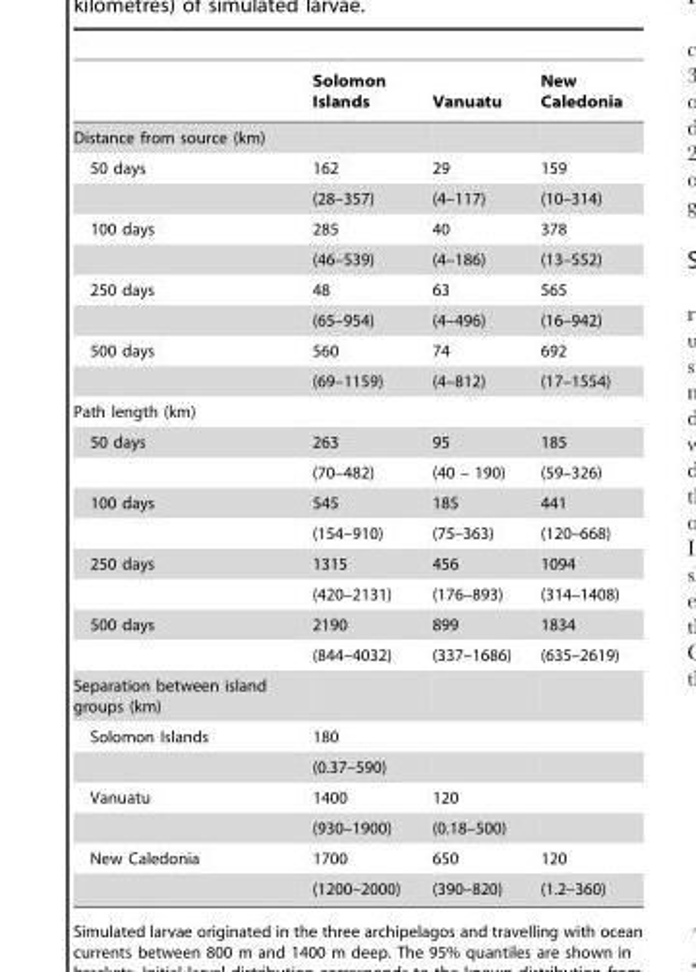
<table><thead><tr><td></td><td>Solomon Islands</td><td>Vanuatu</td><td>New Caledonia</td></tr></thead><tbody><tr><td colspan="4">Distance from source (km)</td></tr><tr><td rowspan="2">50 days</td><td>162</td><td>29</td><td>159</td></tr><tr><td>(28–357)</td><td>(4–117)</td><td>(10–314)</td></tr><tr><td rowspan="2">100 days</td><td>285</td><td>40</td><td>378</td></tr><tr><td>(46–539)</td><td>(4–186)</td><td>(13–552)</td></tr><tr><td rowspan="2">250 days</td><td>48</td><td>63</td><td>565</td></tr><tr><td>(65–954)</td><td>(4–496)</td><td>(16–942)</td></tr><tr><td rowspan="2">500 days</td><td>560</td><td>74</td><td>692</td></tr><tr><td>(69–1159)</td><td>(4–812)</td><td>(17–1554)</td></tr><tr><td colspan="4">Path length (km)</td></tr><tr><td rowspan="2">50 days</td><td>263</td><td>95</td><td>185</td></tr><tr><td>(70–482)</td><td>(40 – 190)</td><td>(59–326)</td></tr><tr><td rowspan="2">100 days</td><td>545</td><td>185</td><td>441</td></tr><tr><td>(154–910)</td><td>(75–363)</td><td>(120–668)</td></tr><tr><td rowspan="2">250 days</td><td>1315</td><td>456</td><td>1094</td></tr><tr><td>(420–2131)</td><td>(176–893)</td><td>(314–1408)</td></tr><tr><td rowspan="2">500 days</td><td>2190</td><td>899</td><td>1834</td></tr><tr><td>(844–4032)</td><td>(337–1686)</td><td>(635–2619)</td></tr><tr><td colspan="4">Separation between island groups (km)</td></tr><tr><td rowspan="2">Solomon Islands</td><td>180</td><td></td><td></td></tr><tr><td>(0.37–590)</td><td></td><td></td></tr><tr><td rowspan="2">Vanuatu</td><td>1400</td><td>120</td><td></td></tr><tr><td>(930–1900)</td><td>(0.18–500)</td><td></td></tr><tr><td rowspan="2">New Caledonia</td><td>1700</td><td>650</td><td>120</td></tr><tr><td>(1200–2000)</td><td>(390–820)</td><td>(1.2–360)</td></tr></tbody></table>